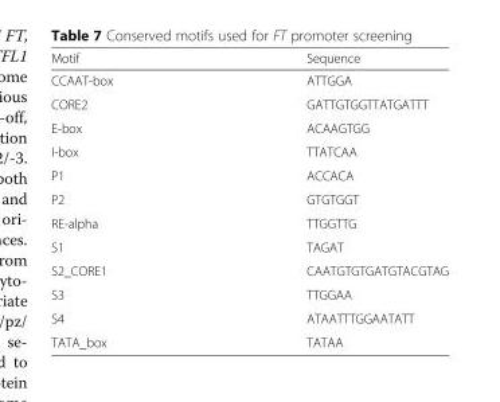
<table><thead><tr><td>Motif</td><td>Sequence</td></tr></thead><tbody><tr><td>CCAAT-box</td><td>ATTGGA</td></tr><tr><td>CORE2</td><td>GATTGTGGTTATGATTT</td></tr><tr><td>E-box</td><td>ACAAGTGG</td></tr><tr><td>I-box</td><td>TTATCAA</td></tr><tr><td>P1</td><td>ACCACA</td></tr><tr><td>P2</td><td>GTGTGGT</td></tr><tr><td>RE-alpha</td><td>TTGGTTG</td></tr><tr><td>S1</td><td>TAGAT</td></tr><tr><td>S2_CORE1</td><td>CAATGTGTGATGTACGTAG</td></tr><tr><td>S3</td><td>TTGGAA</td></tr><tr><td>S4</td><td>ATAATTTGGAATATT</td></tr><tr><td>TATA_box</td><td>TATAA</td></tr></tbody></table>